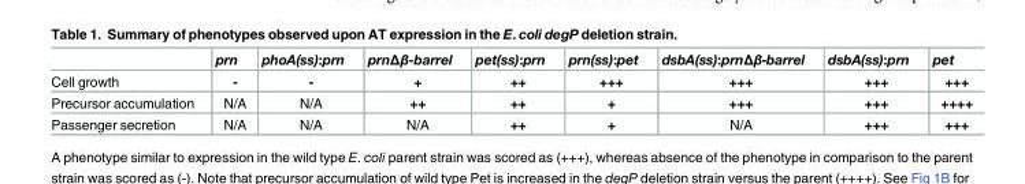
<table><thead><tr><td></td><td>prn</td><td>phoA(ss):prn</td><td>prnΔβ-barrel</td><td>pet(ss):prn</td><td>prn(ss):pet</td><td>dsbA(ss):prnΔβ-barrel</td><td>dsbA(ss):prn</td><td>pet</td></tr></thead><tbody><tr><td>Cell growth</td><td>-</td><td>-</td><td>+</td><td>++</td><td>+++</td><td>+++</td><td>+++</td><td>+++</td></tr><tr><td>Precursor accumulation</td><td>N/A</td><td>N/A</td><td>++</td><td>++</td><td>+</td><td>+++</td><td>+++</td><td>++++</td></tr><tr><td>Passenger secretion</td><td>N/A</td><td>N/A</td><td>N/A</td><td>++</td><td>+</td><td>N/A</td><td>+++</td><td>+++</td></tr></tbody></table>